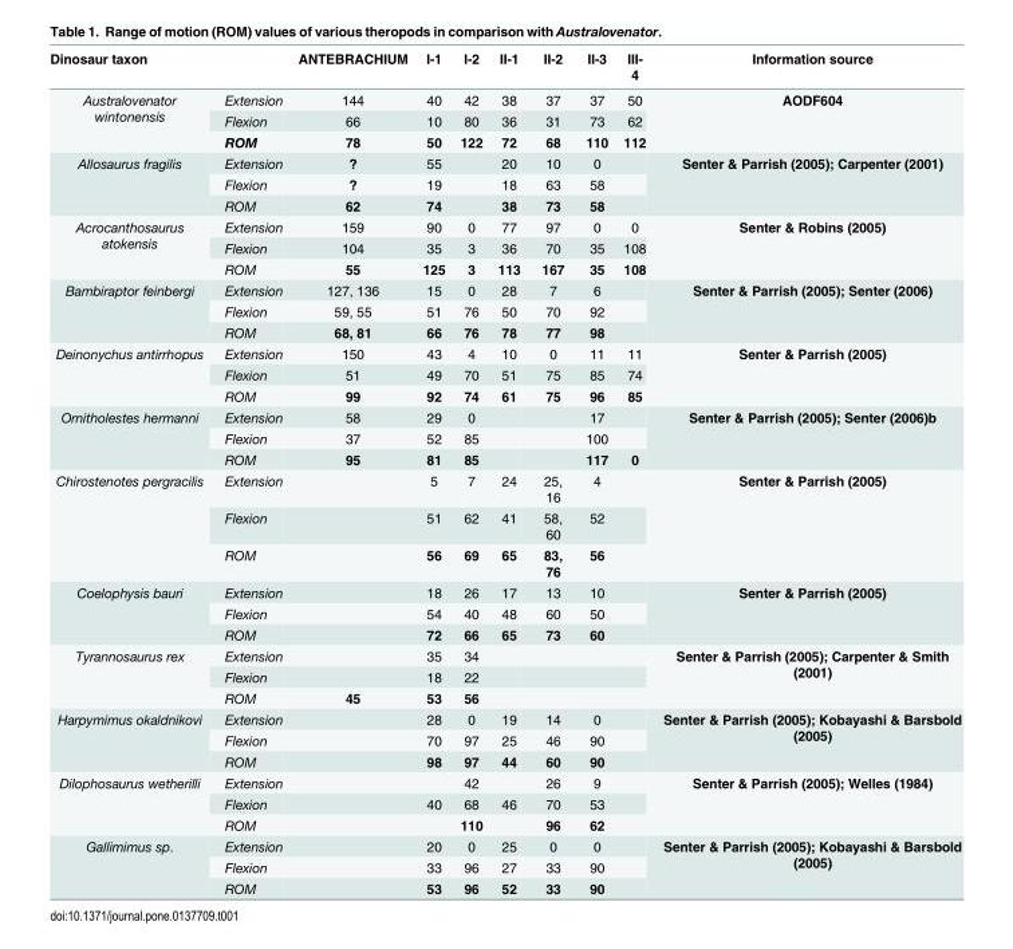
<table><thead><tr><td>Dinosaur taxon</td><td></td><td>ANTEBRACHIUM</td><td>I-1</td><td>I-2</td><td>II-1</td><td>II-2</td><td>II-3</td><td>III- 4</td><td>Information source</td></tr></thead><tbody><tr><td rowspan="3">Australovenator wintonensis</td><td>Extension</td><td>144</td><td>40</td><td>42</td><td>38</td><td>37</td><td>37</td><td>50</td><td rowspan="3">AODF604</td></tr><tr><td>Flexion</td><td>66</td><td>10</td><td>80</td><td>36</td><td>31</td><td>73</td><td>62</td></tr><tr><td>ROM</td><td>78</td><td>50</td><td>122</td><td>72</td><td>68</td><td>110</td><td>112</td></tr><tr><td rowspan="3">Allosaurus fragilis</td><td>Extension</td><td>?</td><td>55</td><td></td><td>20</td><td>10</td><td>0</td><td></td><td rowspan="3">Senter &amp; Parrish (2005); Carpenter (2001)</td></tr><tr><td>Flexion</td><td>?</td><td>19</td><td></td><td>18</td><td>63</td><td>58</td><td></td></tr><tr><td>ROM</td><td>62</td><td>74</td><td></td><td>38</td><td>73</td><td>58</td><td></td></tr><tr><td rowspan="3">Acrocanthosaurus atokensis</td><td>Extension</td><td>159</td><td>90</td><td>0</td><td>77</td><td>97</td><td>0</td><td>0</td><td rowspan="3">Senter &amp; Robins (2005)</td></tr><tr><td>Flexion</td><td>104</td><td>35</td><td>3</td><td>36</td><td>70</td><td>35</td><td>108</td></tr><tr><td>ROM</td><td>55</td><td>125</td><td>3</td><td>113</td><td>167</td><td>35</td><td>108</td></tr><tr><td rowspan="3">Bambiraptor feinbergi</td><td>Extension</td><td>127, 136</td><td>15</td><td>0</td><td>28</td><td>7</td><td>6</td><td></td><td rowspan="3">Senter &amp; Parrish (2005); Senter (2006)</td></tr><tr><td>Flexion</td><td>59, 55</td><td>51</td><td>76</td><td>50</td><td>70</td><td>92</td><td></td></tr><tr><td>ROM</td><td>68, 81</td><td>66</td><td>76</td><td>78</td><td>77</td><td>98</td><td></td></tr><tr><td rowspan="3">Deinonychus antirrhopus</td><td>Extension</td><td>150</td><td>43</td><td>4</td><td>10</td><td>0</td><td>11</td><td>11</td><td rowspan="3">Senter &amp; Parrish (2005)</td></tr><tr><td>Flexion</td><td>51</td><td>49</td><td>70</td><td>51</td><td>75</td><td>85</td><td>74</td></tr><tr><td>ROM</td><td>99</td><td>92</td><td>74</td><td>61</td><td>75</td><td>96</td><td>85</td></tr><tr><td rowspan="3">Ornitholestes hermanni</td><td>Extension</td><td>58</td><td>29</td><td>0</td><td></td><td></td><td>17</td><td></td><td rowspan="3">Senter &amp; Parrish (2005); Senter (2006)b</td></tr><tr><td>Flexion</td><td>37</td><td>52</td><td>85</td><td></td><td></td><td>100</td><td></td></tr><tr><td>ROM</td><td>95</td><td>81</td><td>85</td><td></td><td></td><td>117</td><td>0</td></tr><tr><td rowspan="3">Chirostenotes pergracilis</td><td>Extension</td><td></td><td>5</td><td>7</td><td>24</td><td>25, 16</td><td>4</td><td></td><td rowspan="3">Senter &amp; Parrish (2005)</td></tr><tr><td>Flexion</td><td></td><td>51</td><td>62</td><td>41</td><td>58, 60</td><td>52</td><td></td></tr><tr><td>ROM</td><td></td><td>56</td><td>69</td><td>65</td><td>83, 76</td><td>56</td><td></td></tr><tr><td rowspan="3">Coelophysis bauri</td><td>Extension</td><td></td><td>18</td><td>26</td><td>17</td><td>13</td><td>10</td><td></td><td rowspan="3">Senter &amp; Parrish (2005)</td></tr><tr><td>Flexion</td><td></td><td>54</td><td>40</td><td>48</td><td>60</td><td>50</td><td></td></tr><tr><td>ROM</td><td></td><td>72</td><td>66</td><td>65</td><td>73</td><td>60</td><td></td></tr><tr><td rowspan="3">Tyrannosaurus rex</td><td>Extension</td><td></td><td>35</td><td>34</td><td></td><td></td><td></td><td></td><td rowspan="3">Senter &amp; Parrish (2005); Carpenter &amp; Smith (2001)</td></tr><tr><td>Flexion</td><td></td><td>18</td><td>22</td><td></td><td></td><td></td><td></td></tr><tr><td>ROM</td><td>45</td><td>53</td><td>56</td><td></td><td></td><td></td><td></td></tr><tr><td rowspan="3">Harpymimus okaldnikovi</td><td>Extension</td><td></td><td>28</td><td>0</td><td>19</td><td>14</td><td>0</td><td></td><td rowspan="3">Senter &amp; Parrish (2005); Kobayashi &amp; Barsbold (2005)</td></tr><tr><td>Flexion</td><td></td><td>70</td><td>97</td><td>25</td><td>46</td><td>90</td><td></td></tr><tr><td>ROM</td><td></td><td>98</td><td>97</td><td>44</td><td>60</td><td>90</td><td></td></tr><tr><td rowspan="3">Dilophosaurus wetherilli</td><td>Extension</td><td></td><td></td><td>42</td><td></td><td>26</td><td>9</td><td></td><td rowspan="3">Senter &amp; Parrish (2005); Welles (1984)</td></tr><tr><td>Flexion</td><td></td><td>40</td><td>68</td><td>46</td><td>70</td><td>53</td><td></td></tr><tr><td>ROM</td><td></td><td></td><td>110</td><td></td><td>96</td><td>62</td><td></td></tr><tr><td rowspan="3">Gallimimus sp.</td><td>Extension</td><td></td><td>20</td><td>0</td><td>25</td><td>0</td><td>0</td><td></td><td rowspan="3">Senter &amp; Parrish (2005); Kobayashi &amp; Barsbold (2005)</td></tr><tr><td>Flexion</td><td></td><td>33</td><td>96</td><td>27</td><td>33</td><td>90</td><td></td></tr><tr><td>ROM</td><td></td><td>53</td><td>96</td><td>52</td><td>33</td><td>90</td><td></td></tr></tbody></table>